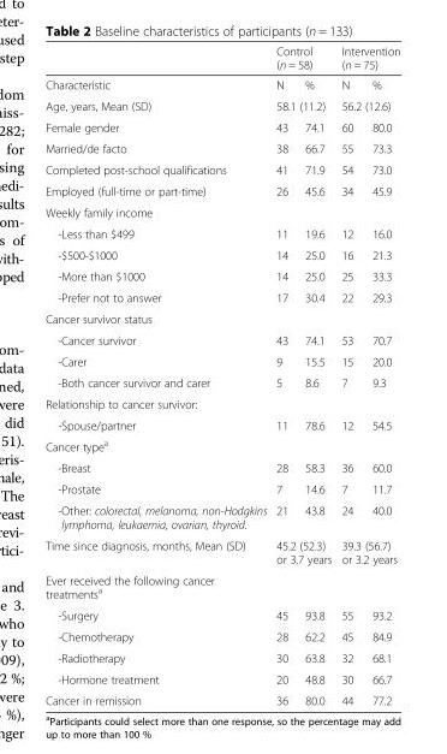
<table><thead><tr><td rowspan="2">Characteristic</td><td colspan="2">Control (n = 58)</td><td colspan="2">Intervention (n = 75)</td></tr><tr><td>N</td><td>%</td><td>N</td><td>%</td></tr></thead><tbody><tr><td>Age, years, Mean (SD)</td><td colspan="2">58.1 (11.2)</td><td colspan="2">56.2 (12.6)</td></tr><tr><td>Female gender</td><td>43</td><td>74.1</td><td>60</td><td>80.0</td></tr><tr><td>Married/de facto</td><td>38</td><td>66.7</td><td>55</td><td>73.3</td></tr><tr><td>Completed post-school qualifications</td><td>41</td><td>71.9</td><td>54</td><td>73.0</td></tr><tr><td>Employed (full-time or part-time)</td><td>26</td><td>45.6</td><td>34</td><td>45.9</td></tr><tr><td colspan="5">Weekly family income</td></tr><tr><td>-Less than $499</td><td>11</td><td>19.6</td><td>12</td><td>16.0</td></tr><tr><td>-$500-$1000</td><td>14</td><td>25.0</td><td>16</td><td>21.3</td></tr><tr><td>-More than $1000</td><td>14</td><td>25.0</td><td>25</td><td>33.3</td></tr><tr><td>-Prefer not to answer</td><td>17</td><td>30.4</td><td>22</td><td>29.3</td></tr><tr><td colspan="5">Cancer survivor status</td></tr><tr><td>-Cancer survivor</td><td>43</td><td>74.1</td><td>53</td><td>70.7</td></tr><tr><td>-Carer</td><td>9</td><td>15.5</td><td>15</td><td>20.0</td></tr><tr><td>-Both cancer survivor and carer</td><td>5</td><td>8.6</td><td>7</td><td>9.3</td></tr><tr><td colspan="5">Relationship to cancer survivor:</td></tr><tr><td>-Spouse/partner</td><td>11</td><td>78.6</td><td>12</td><td>54.5</td></tr><tr><td colspan="5">Cancer type<sup>a</sup></td></tr><tr><td>-Breast</td><td>28</td><td>58.3</td><td>36</td><td>60.0</td></tr><tr><td>-Prostate</td><td>7</td><td>14.6</td><td>7</td><td>11.7</td></tr><tr><td>-Other: colorectal, melanoma, non-Hodgkins lymphoma, leukaemia, ovarian, thyroid.</td><td>21</td><td>43.8</td><td>24</td><td>40.0</td></tr><tr><td>Time since diagnosis, months, Mean (SD)</td><td colspan="2">45.2 (52.3) or 3.7 years</td><td colspan="2">39.3 (56.7) or 3.2 years</td></tr><tr><td colspan="5">Ever received the following cancer treatments<sup>a</sup></td></tr><tr><td>-Surgery</td><td>45</td><td>93.8</td><td>55</td><td>93.2</td></tr><tr><td>-Chemotherapy</td><td>28</td><td>62.2</td><td>45</td><td>84.9</td></tr><tr><td>-Radiotherapy</td><td>30</td><td>63.8</td><td>32</td><td>68.1</td></tr><tr><td>-Hormone treatment</td><td>20</td><td>48.8</td><td>30</td><td>66.7</td></tr><tr><td>Cancer in remission</td><td>36</td><td>80.0</td><td>44</td><td>77.2</td></tr></tbody></table>